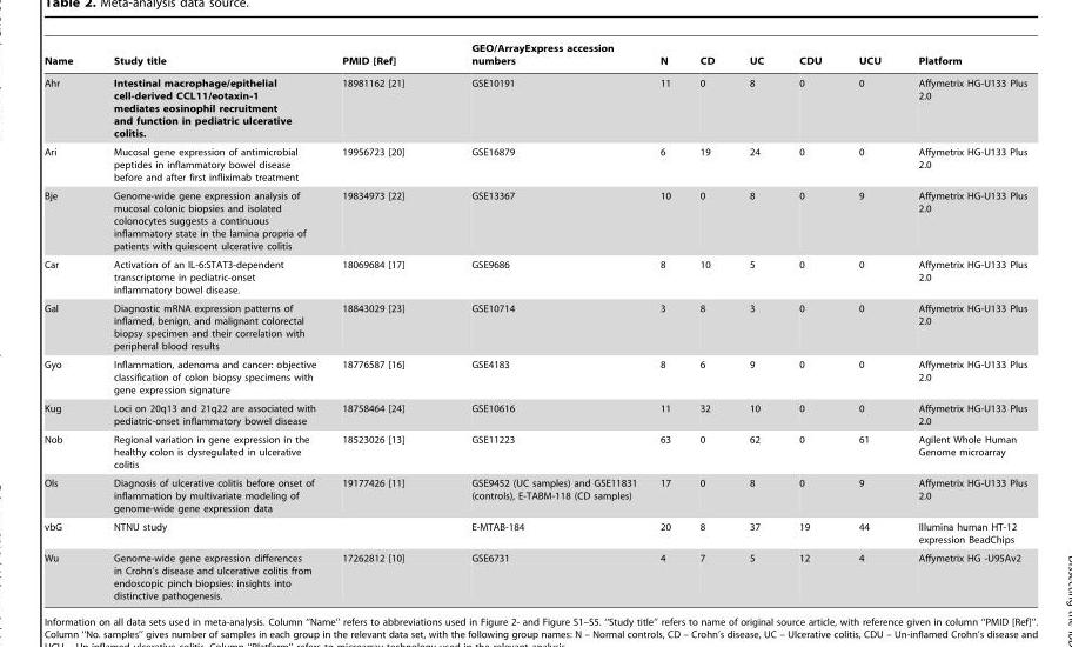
<table><thead><tr><td>Name</td><td>Study title</td><td>PMID [Ref]</td><td>GEO/ArrayExpress accession numbers</td><td>N</td><td>CD</td><td>UC</td><td>CDU</td><td>UCU</td><td>Platform</td></tr></thead><tbody><tr><td>Ahr</td><td>Intestinal macrophage/epithelial cell-derived CCL11/eotaxin-1 mediates eosinophil recruitment and function in pediatric ulcerative colitis.</td><td>18981162 [21]</td><td>GSE10191</td><td>11</td><td>0</td><td>8</td><td>0</td><td>0</td><td>Affymetrix HG-U133 Plus 2.0</td></tr><tr><td>Ari</td><td>Mucosal gene expression of antimicrobial peptides in inflammatory bowel disease before and after first infliximab treatment</td><td>19956723 [20]</td><td>GSE16879</td><td>6</td><td>19</td><td>24</td><td>0</td><td>0</td><td>Affymetrix HG-U133 Plus 2.0</td></tr><tr><td>Bje</td><td>Genome-wide gene expression analysis of mucosal colonic biopsies and isolated colonocytes suggests a continuous inflammatory state in the lamina propria of patients with quiescent ulcerative colitis</td><td>19834973 [22]</td><td>GSE13367</td><td>10</td><td>0</td><td>8</td><td>0</td><td>9</td><td>Affymetrix HG-U133 Plus 2.0</td></tr><tr><td>Car</td><td>Activation of an IL-6:STAT3-dependent transcriptome in pediatric-onset inflammatory bowel disease.</td><td>18069684 [17]</td><td>GSE9686</td><td>8</td><td>10</td><td>5</td><td>0</td><td>0</td><td>Affymetrix HG-U133 Plus 2.0</td></tr><tr><td>Gal</td><td>Diagnostic mRNA expression patterns of inflamed, benign, and malignant colorectal biopsy specimen and their correlation with peripheral blood results</td><td>18843029 [23]</td><td>GSE10714</td><td>3</td><td>8</td><td>3</td><td>0</td><td>0</td><td>Affymetrix HG-U133 Plus 2.0</td></tr><tr><td>Gyo</td><td>Inflammation, adenoma and cancer: objective classification of colon biopsy specimens with gene expression signature</td><td>18776587 [16]</td><td>GSE4183</td><td>8</td><td>6</td><td>9</td><td>0</td><td>0</td><td>Affymetrix HG-U133 Plus 2.0</td></tr><tr><td>Kug</td><td>Loci on 20q13 and 21q22 are associated with pediatric-onset inflammatory bowel disease</td><td>18758464 [24]</td><td>GSE10616</td><td>11</td><td>32</td><td>10</td><td>0</td><td>0</td><td>Affymetrix HG-U133 Plus 2.0</td></tr><tr><td>Nob</td><td>Regional variation in gene expression in the healthy colon is dysregulated in ulcerative colitis</td><td>18523026 [13]</td><td>GSE11223</td><td>63</td><td>0</td><td>62</td><td>0</td><td>61</td><td>Agilent Whole Human Genome microarray</td></tr><tr><td>Ols</td><td>Diagnosis of ulcerative colitis before onset of inflammation by multivariate modeling of genome-wide gene expression data</td><td>19177426 [11]</td><td>GSE9452 (UC samples) and GSE11831 (controls), E-TABM-118 (CD samples)</td><td>17</td><td>0</td><td>8</td><td>0</td><td>9</td><td>Affymetrix HG-U133 Plus 2.0</td></tr><tr><td>vbG</td><td>NTNU study</td><td></td><td>E-MTAB-184</td><td>20</td><td>8</td><td>37</td><td>19</td><td>44</td><td>Illumina human HT-12 expression BeadChips</td></tr><tr><td>Wu</td><td>Genome-wide gene expression differences in Crohn’s disease and ulcerative colitis from endoscopic pinch biopsies: insights into distinctive pathogenesis.</td><td>17262812 [10]</td><td>GSE6731</td><td>4</td><td>7</td><td>5</td><td>12</td><td>4</td><td>Affymetrix HG -U95Av2</td></tr></tbody></table>